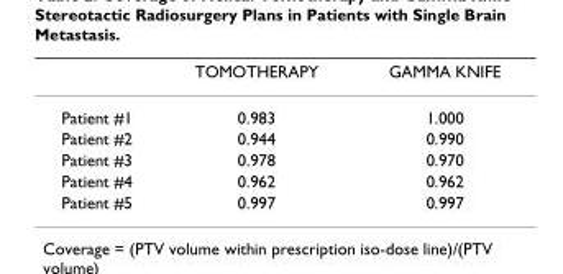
<table><thead><tr><td></td><td>TOMOTHERAPY</td><td>GAMMA KNIFE</td></tr></thead><tbody><tr><td>Patient #1</td><td>0.983</td><td>1.000</td></tr><tr><td>Patient #2</td><td>0.944</td><td>0.990</td></tr><tr><td>Patient #3</td><td>0.978</td><td>0.970</td></tr><tr><td>Patient #4</td><td>0.962</td><td>0.962</td></tr><tr><td>Patient #5</td><td>0.997</td><td>0.997</td></tr></tbody></table>